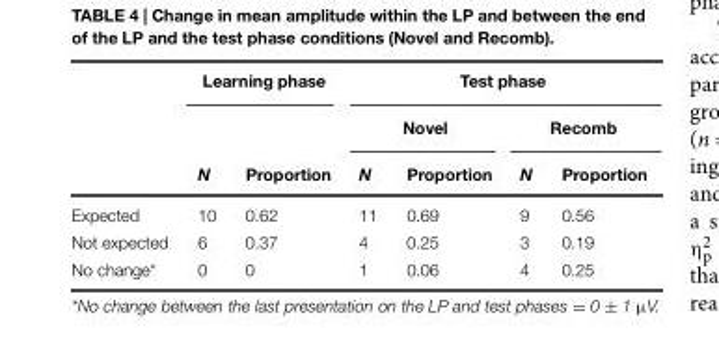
<table><thead><tr><td rowspan="3"></td><td colspan="2">Learning phase</td><td colspan="4">Test phase</td></tr><tr><td rowspan="2">N</td><td rowspan="2">Proportion</td><td colspan="2">Novel</td><td colspan="2">Recomb</td></tr><tr><td>N</td><td>Proportion</td><td>N</td><td>Proportion</td></tr></thead><tbody><tr><td>Expected</td><td>10</td><td>0.62</td><td>11</td><td>0.69</td><td>9</td><td>0.56</td></tr><tr><td>Not expected</td><td>6</td><td>0.37</td><td>4</td><td>0.25</td><td>3</td><td>0.19</td></tr><tr><td>No change*</td><td>0</td><td>0</td><td>1</td><td>0.06</td><td>4</td><td>0.25</td></tr></tbody></table>